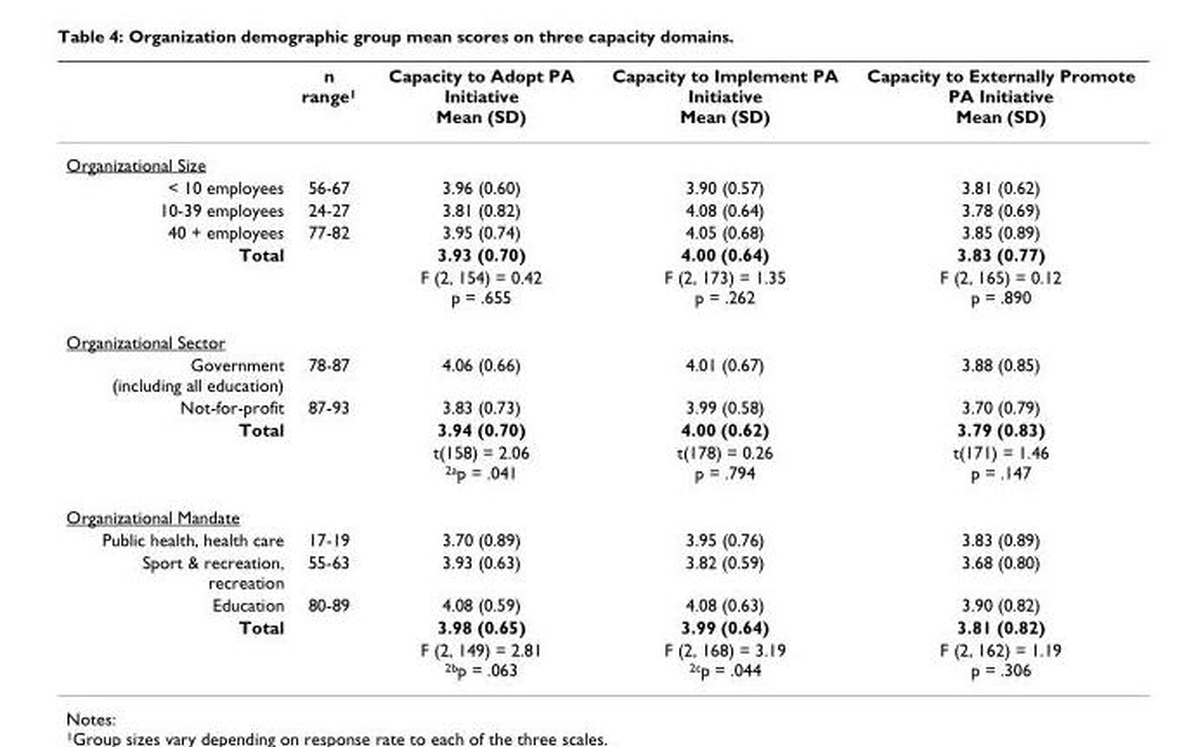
<table><thead><tr><td></td><td>n range<sup>1</sup></td><td>Capacity to Adopt PA Initiative Mean (SD)</td><td>Capacity to Implement PA Initiative Mean (SD)</td><td>Capacity to Externally Promote PA Initiative Mean (SD)</td></tr></thead><tbody><tr><td colspan="5">Organizational Size</td></tr><tr><td>&lt; 10 employees</td><td>56-67</td><td>3.96 (0.60)</td><td>3.90 (0.57)</td><td>3.81 (0.62)</td></tr><tr><td>10-39 employees</td><td>24-27</td><td>3.81 (0.82)</td><td>4.08 (0.64)</td><td>3.78 (0.69)</td></tr><tr><td>40 + employees</td><td>77-82</td><td>3.95 (0.74)</td><td>4.05 (0.68)</td><td>3.85 (0.89)</td></tr><tr><td rowspan="2">Total</td><td></td><td>3.93 (0.70)</td><td>4.00 (0.64)</td><td>3.83 (0.77)</td></tr><tr><td></td><td>F (2, 154) = 0.42 p = .655</td><td>F (2, 173) = 1.35 p = .262</td><td>F (2, 165) = 0.12 p = .890</td></tr><tr><td colspan="5">Organizational Sector</td></tr><tr><td>Government (including all education)</td><td>78-87</td><td>4.06 (0.66)</td><td>4.01 (0.67)</td><td>3.88 (0.85)</td></tr><tr><td>Not-for-profit</td><td>87-93</td><td>3.83 (0.73)</td><td>3.99 (0.58)</td><td>3.70 (0.79)</td></tr><tr><td rowspan="2">Total</td><td></td><td>3.94 (0.70)</td><td>4.00 (0.62)</td><td>3.79 (0.83)</td></tr><tr><td></td><td>t(158) = 2.06 <sup>2a</sup>p = .041</td><td>t(178) = 0.26 p = .794</td><td>t(171) = 1.46 p = .147</td></tr><tr><td colspan="5">Organizational Mandate</td></tr><tr><td>Public health, health care</td><td>17-19</td><td>3.70 (0.89)</td><td>3.95 (0.76)</td><td>3.83 (0.89)</td></tr><tr><td>Sport &amp; recreation, recreation</td><td>55-63</td><td>3.93 (0.63)</td><td>3.82 (0.59)</td><td>3.68 (0.80)</td></tr><tr><td>Education</td><td>80-89</td><td>4.08 (0.59)</td><td>4.08 (0.63)</td><td>3.90 (0.82)</td></tr><tr><td rowspan="2">Total</td><td></td><td>3.98 (0.65)</td><td>3.99 (0.64)</td><td>3.81 (0.82)</td></tr><tr><td></td><td>F (2, 149) = 2.81 <sup>2b</sup>p = .063</td><td>F (2, 168) = 3.19 <sup>2c</sup>p = .044</td><td>F (2, 162) = 1.19 p = .306</td></tr></tbody></table>